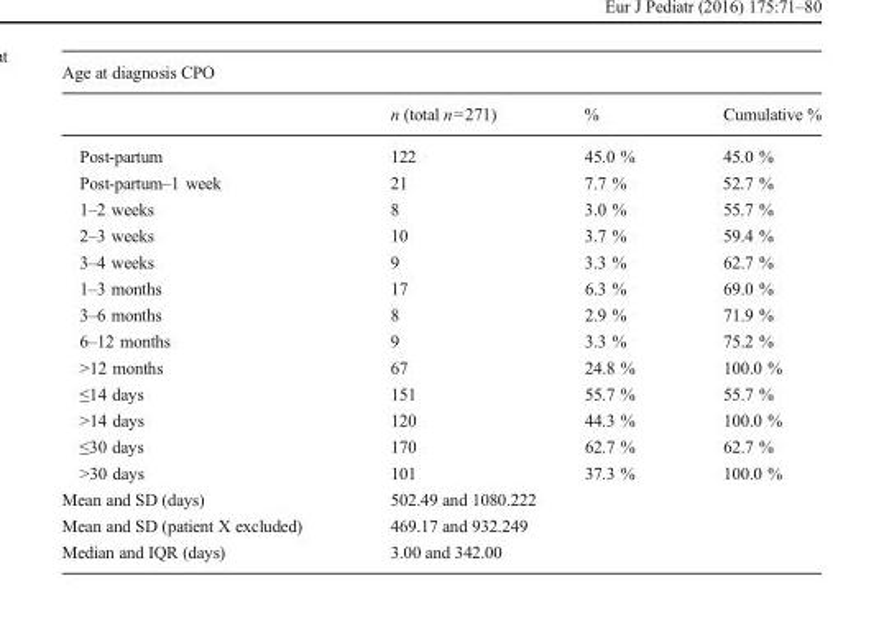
<table><thead><tr><td colspan="4">Age at diagnosis CPO</td></tr><tr><td></td><td>n (total n=271)</td><td>%</td><td>Cumulative %</td></tr></thead><tbody><tr><td>Post-partum</td><td>122</td><td>45.0 %</td><td>45.0 %</td></tr><tr><td>Post-partum–1 week</td><td>21</td><td>7.7 %</td><td>52.7 %</td></tr><tr><td>1–2 weeks</td><td>8</td><td>3.0 %</td><td>55.7 %</td></tr><tr><td>2–3 weeks</td><td>10</td><td>3.7 %</td><td>59.4 %</td></tr><tr><td>3–4 weeks</td><td>9</td><td>3.3 %</td><td>62.7 %</td></tr><tr><td>1–3 months</td><td>17</td><td>6.3 %</td><td>69.0 %</td></tr><tr><td>3–6 months</td><td>8</td><td>2.9 %</td><td>71.9 %</td></tr><tr><td>6–12 months</td><td>9</td><td>3.3 %</td><td>75.2 %</td></tr><tr><td>&gt;12 months</td><td>67</td><td>24.8 %</td><td>100.0 %</td></tr><tr><td>≤14 days</td><td>151</td><td>55.7 %</td><td>55.7 %</td></tr><tr><td>&gt;14 days</td><td>120</td><td>44.3 %</td><td>100.0 %</td></tr><tr><td>≤30 days</td><td>170</td><td>62.7 %</td><td>62.7 %</td></tr><tr><td>&gt;30 days</td><td>101</td><td>37.3 %</td><td>100.0 %</td></tr><tr><td>Mean and SD (days)</td><td colspan="3">502.49 and 1080.222</td></tr><tr><td>Mean and SD (patient X excluded)</td><td colspan="3">469.17 and 932.249</td></tr><tr><td>Median and IQR (days)</td><td colspan="3">3.00 and 342.00</td></tr></tbody></table>